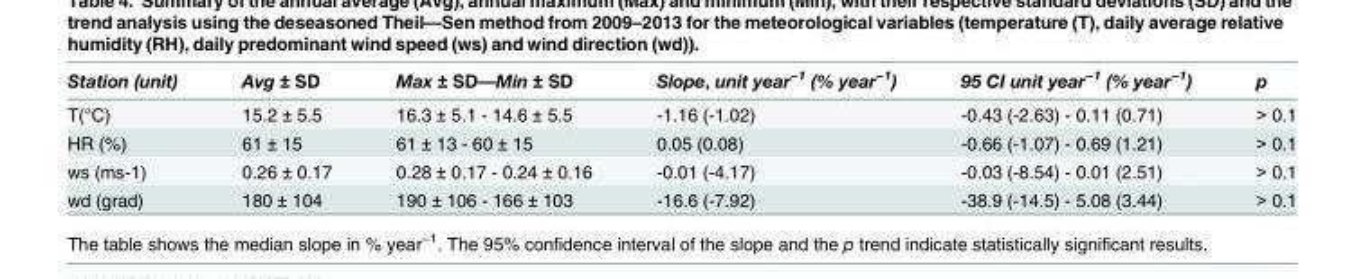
<table><thead><tr><td>Station (unit)</td><td>Avg ± SD</td><td>Max ± SD—Min ± SD</td><td>Slope, unit year<sup>−1</sup> (% year<sup>−1</sup>)</td><td>95 CI unit year<sup>−1</sup> (% year<sup>−1</sup>)</td><td>p</td></tr></thead><tbody><tr><td>T(°C)</td><td>15.2 ± 5.5</td><td>16.3 ± 5.1 - 14.6 ± 5.5</td><td>-1.16 (-1.02)</td><td>-0.43 (-2.63) - 0.11 (0.71)</td><td>&gt; 0.1</td></tr><tr><td>HR (%)</td><td>61 ± 15</td><td>61 ± 13 - 60 ± 15</td><td>0.05 (0.08)</td><td>-0.66 (-1.07) - 0.69 (1.21)</td><td>&gt; 0.1</td></tr><tr><td>ws (ms-1)</td><td>0.26 ± 0.17</td><td>0.28 ± 0.17 - 0.24 ± 0.16</td><td>-0.01 (-4.17)</td><td>-0.03 (-8.54) - 0.01 (2.51)</td><td>&gt; 0.1</td></tr><tr><td>wd (grad)</td><td>180 ± 104</td><td>190 ± 106 - 166 ± 103</td><td>-16.6 (-7.92)</td><td>-38.9 (-14.5) - 5.08 (3.44)</td><td>&gt; 0.1</td></tr></tbody></table>